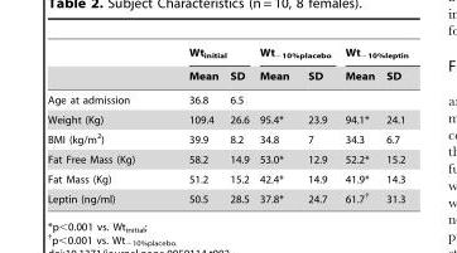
<table><thead><tr><td rowspan="2"></td><td colspan="2">Wt<sub>initial</sub></td><td colspan="2">Wt<sub>−10%placebo</sub></td><td colspan="2">Wt<sub>−10%leptin</sub></td></tr><tr><td>Mean</td><td>SD</td><td>Mean</td><td>SD</td><td>Mean</td><td>SD</td></tr></thead><tbody><tr><td>Age at admission</td><td>36.8</td><td>6.5</td><td></td><td></td><td></td><td></td></tr><tr><td>Weight (Kg)</td><td>109.4</td><td>26.6</td><td>95.4*</td><td>23.9</td><td>94.1*</td><td>24.1</td></tr><tr><td>BMI (kg/m<sup>2</sup>)</td><td>39.9</td><td>8.2</td><td>34.8</td><td>7</td><td>34.3</td><td>6.7</td></tr><tr><td>Fat Free Mass (Kg)</td><td>58.2</td><td>14.9</td><td>53.0*</td><td>12.9</td><td>52.2*</td><td>15.2</td></tr><tr><td>Fat Mass (Kg)</td><td>51.2</td><td>15.2</td><td>42.4*</td><td>14.9</td><td>41.9*</td><td>14.3</td></tr><tr><td>Leptin (ng/ml)</td><td>50.5</td><td>28.5</td><td>37.8*</td><td>24.7</td><td>61.7†</td><td>31.3</td></tr></tbody></table>